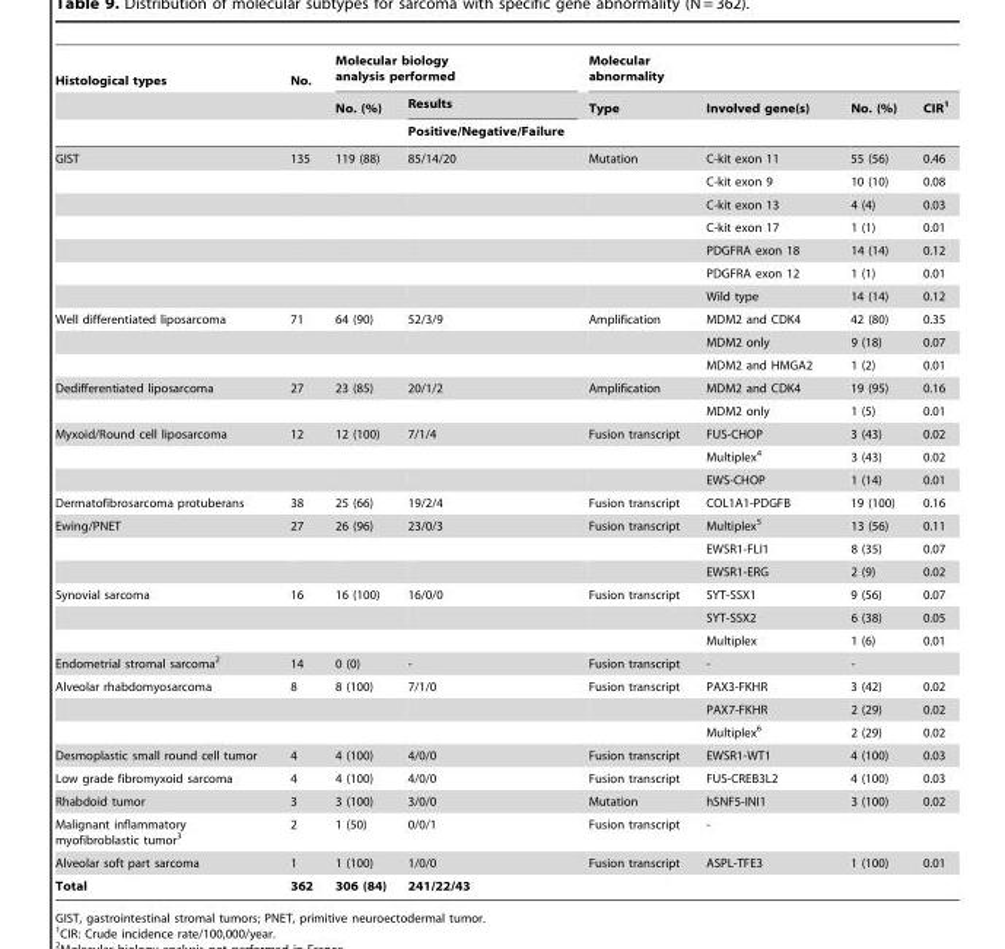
<table><thead><tr><td rowspan="3">Histological types</td><td rowspan="3">No.</td><td colspan="2">Molecular biology analysis performed</td><td colspan="4">Molecular abnormality</td></tr><tr><td rowspan="2">No. (%)</td><td rowspan="2">Results Positive/Negative/Failure</td><td rowspan="2">Type</td><td rowspan="2">Involved gene(s)</td><td rowspan="2">No. (%)</td><td rowspan="2">CIR<sup>1</sup></td></tr><tr></tr></thead><tbody><tr><td rowspan="7">GIST</td><td>135</td><td>119 (88)</td><td>85/14/20</td><td>Mutation</td><td>C-kit exon 11</td><td>55 (56)</td><td>0.46</td></tr><tr><td></td><td></td><td></td><td></td><td>C-kit exon 9</td><td>10 (10)</td><td>0.08</td></tr><tr><td></td><td></td><td></td><td></td><td>C-kit exon 13</td><td>4 (4)</td><td>0.03</td></tr><tr><td></td><td></td><td></td><td></td><td>C-kit exon 17</td><td>1 (1)</td><td>0.01</td></tr><tr><td></td><td></td><td></td><td></td><td>PDGFRA exon 18</td><td>14 (14)</td><td>0.12</td></tr><tr><td></td><td></td><td></td><td></td><td>PDGFRA exon 12</td><td>1 (1)</td><td>0.01</td></tr><tr><td></td><td></td><td></td><td></td><td>Wild type</td><td>14 (14)</td><td>0.12</td></tr><tr><td rowspan="3">Well differentiated liposarcoma</td><td>71</td><td>64 (90)</td><td>52/3/9</td><td>Amplification</td><td>MDM2 and CDK4</td><td>42 (80)</td><td>0.35</td></tr><tr><td></td><td></td><td></td><td></td><td>MDM2 only</td><td>9 (18)</td><td>0.07</td></tr><tr><td></td><td></td><td></td><td></td><td>MDM2 and HMGA2</td><td>1 (2)</td><td>0.01</td></tr><tr><td rowspan="2">Dedifferentiated liposarcoma</td><td>27</td><td>23 (85)</td><td>20/1/2</td><td>Amplification</td><td>MDM2 and CDK4</td><td>19 (95)</td><td>0.16</td></tr><tr><td></td><td></td><td></td><td></td><td>MDM2 only</td><td>1 (5)</td><td>0.01</td></tr><tr><td rowspan="3">Myxoid/Round cell liposarcoma</td><td>12</td><td>12 (100)</td><td>7/1/4</td><td>Fusion transcript</td><td>FUS-CHOP</td><td>3 (43)</td><td>0.02</td></tr><tr><td></td><td></td><td></td><td></td><td>Multiplex<sup>4</sup></td><td>3 (43)</td><td>0.02</td></tr><tr><td></td><td></td><td></td><td></td><td>EWS-CHOP</td><td>1 (14)</td><td>0.01</td></tr><tr><td>Dermatofibrosarcoma protuberans</td><td>38</td><td>25 (66)</td><td>19/2/4</td><td>Fusion transcript</td><td>COL1A1-PDGFB</td><td>19 (100)</td><td>0.16</td></tr><tr><td rowspan="3">Ewing/PNET</td><td>27</td><td>26 (96)</td><td>23/0/3</td><td>Fusion transcript</td><td>Multiplex<sup>5</sup></td><td>13 (56)</td><td>0.11</td></tr><tr><td></td><td></td><td></td><td></td><td>EWSR1-FLI1</td><td>8 (35)</td><td>0.07</td></tr><tr><td></td><td></td><td></td><td></td><td>EWSR1-ERG</td><td>2 (9)</td><td>0.02</td></tr><tr><td rowspan="3">Synovial sarcoma</td><td>16</td><td>16 (100)</td><td>16/0/0</td><td>Fusion transcript</td><td>SYT-SSX1</td><td>9 (56)</td><td>0.07</td></tr><tr><td></td><td></td><td></td><td></td><td>SYT-SSX2</td><td>6 (38)</td><td>0.05</td></tr><tr><td></td><td></td><td></td><td></td><td>Multiplex</td><td>1 (6)</td><td>0.01</td></tr><tr><td>Endometrial stromal sarcoma<sup>2</sup></td><td>14</td><td>0 (0)</td><td>-</td><td>Fusion transcript</td><td>-</td><td>-</td><td></td></tr><tr><td rowspan="3">Alveolar rhabdomyosarcoma</td><td>8</td><td>8 (100)</td><td>7/1/0</td><td>Fusion transcript</td><td>PAX3-FKHR</td><td>3 (42)</td><td>0.02</td></tr><tr><td></td><td></td><td></td><td></td><td>PAX7-FKHR</td><td>2 (29)</td><td>0.02</td></tr><tr><td></td><td></td><td></td><td></td><td>Multiplex<sup>6</sup></td><td>2 (29)</td><td>0.02</td></tr><tr><td>Desmoplastic small round cell tumor</td><td>4</td><td>4 (100)</td><td>4/0/0</td><td>Fusion transcript</td><td>EWSR1-WT1</td><td>4 (100)</td><td>0.03</td></tr><tr><td>Low grade fibromyxoid sarcoma</td><td>4</td><td>4 (100)</td><td>4/0/0</td><td>Fusion transcript</td><td>FUS-CREB3L2</td><td>4 (100)</td><td>0.03</td></tr><tr><td>Rhabdoid tumor</td><td>3</td><td>3 (100)</td><td>3/0/0</td><td>Mutation</td><td>hSNF5-INI1</td><td>3 (100)</td><td>0.02</td></tr><tr><td>Malignant inflammatory myofibroblastic tumor<sup>3</sup></td><td>2</td><td>1 (50)</td><td>0/0/1</td><td>Fusion transcript</td><td>-</td><td></td><td></td></tr><tr><td>Alveolar soft part sarcoma</td><td>1</td><td>1 (100)</td><td>1/0/0</td><td>Fusion transcript</td><td>ASPL-TFE3</td><td>1 (100)</td><td>0.01</td></tr><tr><td>Total</td><td>362</td><td>306 (84)</td><td>241/22/43</td><td></td><td></td><td></td><td></td></tr></tbody></table>